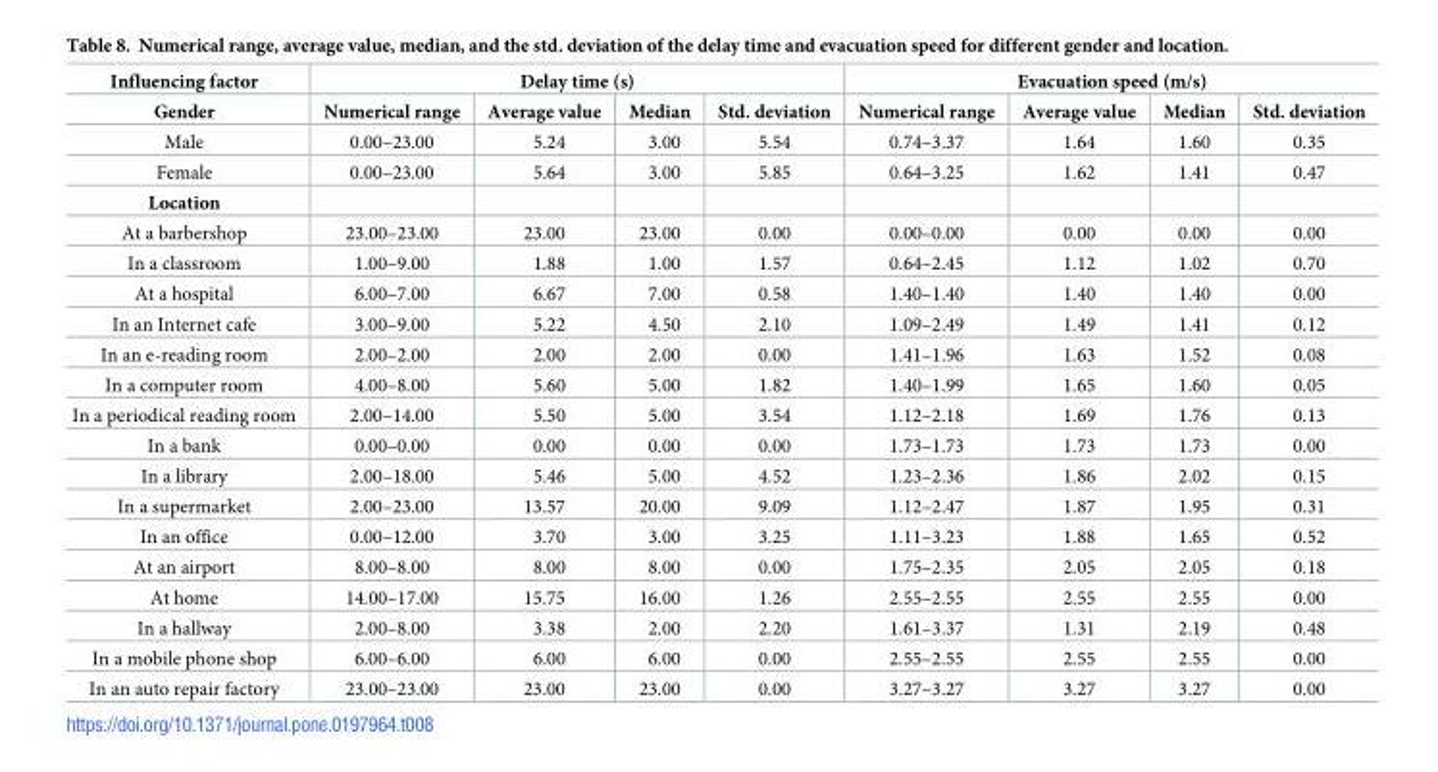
<table><thead><tr><td rowspan="2">Influencing factor Gender</td><td colspan="4">Delay time (s)</td><td colspan="4">Evacuation speed (m/s)</td></tr><tr><td>Numerical range</td><td>Average value</td><td>Median</td><td>Std. deviation</td><td>Numerical range</td><td>Average value</td><td>Median</td><td>Std. deviation</td></tr></thead><tbody><tr><td>Male</td><td>0.00–23.00</td><td>5.24</td><td>3.00</td><td>5.54</td><td>0.74–3.37</td><td>1.64</td><td>1.60</td><td>0.35</td></tr><tr><td>Female</td><td>0.00–23.00</td><td>5.64</td><td>3.00</td><td>5.85</td><td>0.64–3.25</td><td>1.62</td><td>1.41</td><td>0.47</td></tr><tr><td colspan="9">Location</td></tr><tr><td>At a barbershop</td><td>23.00–23.00</td><td>23.00</td><td>23.00</td><td>0.00</td><td>0.00–0.00</td><td>0.00</td><td>0.00</td><td>0.00</td></tr><tr><td>In a classroom</td><td>1.00–9.00</td><td>1.88</td><td>1.00</td><td>1.57</td><td>0.64–2.45</td><td>1.12</td><td>1.02</td><td>0.70</td></tr><tr><td>At a hospital</td><td>6.00–7.00</td><td>6.67</td><td>7.00</td><td>0.58</td><td>1.40–1.40</td><td>1.40</td><td>1.40</td><td>0.00</td></tr><tr><td>In an Internet cafe</td><td>3.00–9.00</td><td>5.22</td><td>4.50</td><td>2.10</td><td>1.09–2.49</td><td>1.49</td><td>1.41</td><td>0.12</td></tr><tr><td>In an e-reading room</td><td>2.00–2.00</td><td>2.00</td><td>2.00</td><td>0.00</td><td>1.41–1.96</td><td>1.63</td><td>1.52</td><td>0.08</td></tr><tr><td>In a computer room</td><td>4.00–8.00</td><td>5.60</td><td>5.00</td><td>1.82</td><td>1.40–1.99</td><td>1.65</td><td>1.60</td><td>0.05</td></tr><tr><td>In a periodical reading room</td><td>2.00–14.00</td><td>5.50</td><td>5.00</td><td>3.54</td><td>1.12–2.18</td><td>1.69</td><td>1.76</td><td>0.13</td></tr><tr><td>In a bank</td><td>0.00–0.00</td><td>0.00</td><td>0.00</td><td>0.00</td><td>1.73–1.73</td><td>1.73</td><td>1.73</td><td>0.00</td></tr><tr><td>In a library</td><td>2.00–18.00</td><td>5.46</td><td>5.00</td><td>4.52</td><td>1.23–2.36</td><td>1.86</td><td>2.02</td><td>0.15</td></tr><tr><td>In a supermarket</td><td>2.00–23.00</td><td>13.57</td><td>20.00</td><td>9.09</td><td>1.12–2.47</td><td>1.87</td><td>1.95</td><td>0.31</td></tr><tr><td>In an office</td><td>0.00–12.00</td><td>3.70</td><td>3.00</td><td>3.25</td><td>1.11–3.23</td><td>1.88</td><td>1.65</td><td>0.52</td></tr><tr><td>At an airport</td><td>8.00–8.00</td><td>8.00</td><td>8.00</td><td>0.00</td><td>1.75–2.35</td><td>2.05</td><td>2.05</td><td>0.18</td></tr><tr><td>At home</td><td>14.00–17.00</td><td>15.75</td><td>16.00</td><td>1.26</td><td>2.55–2.55</td><td>2.55</td><td>2.55</td><td>0.00</td></tr><tr><td>In a hallway</td><td>2.00–8.00</td><td>3.38</td><td>2.00</td><td>2.20</td><td>1.61–3.37</td><td>1.31</td><td>2.19</td><td>0.48</td></tr><tr><td>In a mobile phone shop</td><td>6.00–6.00</td><td>6.00</td><td>6.00</td><td>0.00</td><td>2.55–2.55</td><td>2.55</td><td>2.55</td><td>0.00</td></tr><tr><td>In an auto repair factory</td><td>23.00–23.00</td><td>23.00</td><td>23.00</td><td>0.00</td><td>3.27–3.27</td><td>3.27</td><td>3.27</td><td>0.00</td></tr></tbody></table>